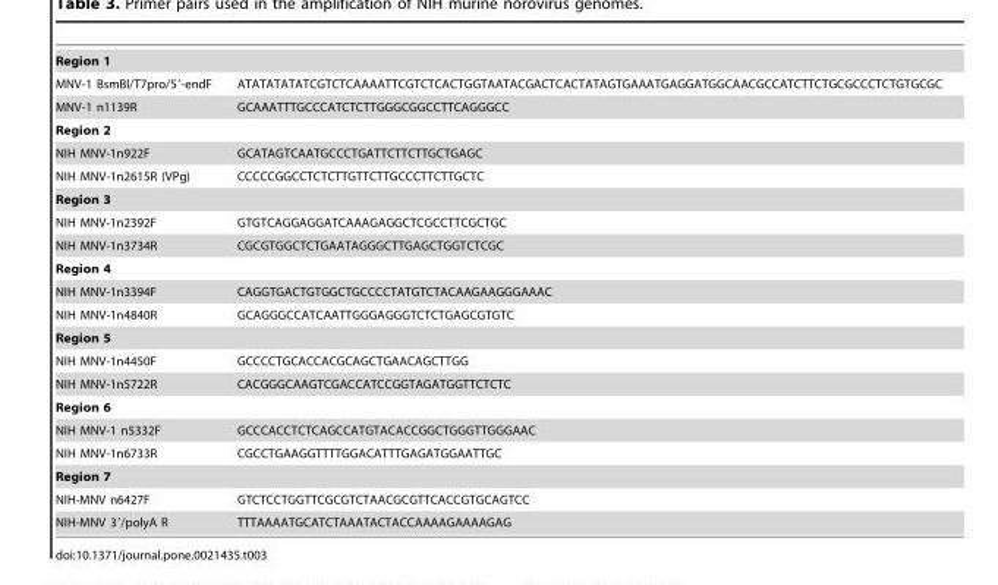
<table><tbody><tr><td colspan="2">Region 1</td></tr><tr><td>MNV-1 BsmBl/T7pro/5′-endF</td><td>ATATATATATCGTCTCAAAATTCGTCTCACTGGTAATACGACTCACTATAGTGAAATGAGGATGGCAACGCCATCTTCTGCGCCCTCTGTGCGC</td></tr><tr><td>MNV-1 n1139R</td><td>GCAAATTTGCCCATCTCTTGGGCGGCCTTCAGGGCC</td></tr><tr><td colspan="2">Region 2</td></tr><tr><td>NIH MNV-1n922F</td><td>GCATAGTCAATGCCCTGATTCTTCTTGCTGAGC</td></tr><tr><td>NIH MNV-1n2615R (VPg)</td><td>CCCCCGGCCTCTCTTGTTCTTGCCCTTCTTGCTC</td></tr><tr><td colspan="2">Region 3</td></tr><tr><td>NIH MNV-1n2392F</td><td>GTGTCAGGAGGATCAAAGAGGCTCGCCTTCGCTGC</td></tr><tr><td>NIH MNV-1n3734R</td><td>CGCGTGGCTCTGAATAGGGCTTGAGCTGGTCTCGC</td></tr><tr><td colspan="2">Region 4</td></tr><tr><td>NIH MNV-1n3394F</td><td>CAGGTGACTGTGGCTGCCCCTATGTCTACAAGAAGGGAAAC</td></tr><tr><td>NIH MNV-1n4840R</td><td>GCAGGGCCATCAATTGGGAGGGTCTCTGAGCGTGTC</td></tr><tr><td colspan="2">Region 5</td></tr><tr><td>NIH MNV-1n4450F</td><td>GCCCCTGCACCACGCAGCTGAACAGCTTGG</td></tr><tr><td>NIH MNV-1n5722R</td><td>CACGGGCAAGTCGACCATCCGGTAGATGGTTCTCTC</td></tr><tr><td colspan="2">Region 6</td></tr><tr><td>NIH MNV-1 n5332F</td><td>GCCCACCTCTCAGCCATGTACACCGGCTGGGTTGGGAAC</td></tr><tr><td>NIH MNV-1n6733R</td><td>CGCCTGAAGGTTTTGGACATTTGAGATGGAATTGC</td></tr><tr><td colspan="2">Region 7</td></tr><tr><td>NIH-MNV n6427F</td><td>GTCTCCTGGTTCGCGTCTAACGCGTTCACCGTGCAGTCC</td></tr><tr><td>NIH-MNV 3′/polyA R</td><td>TTTAAAATGCATCTAAATACTACCAAAAGAAAAGAG</td></tr></tbody></table>